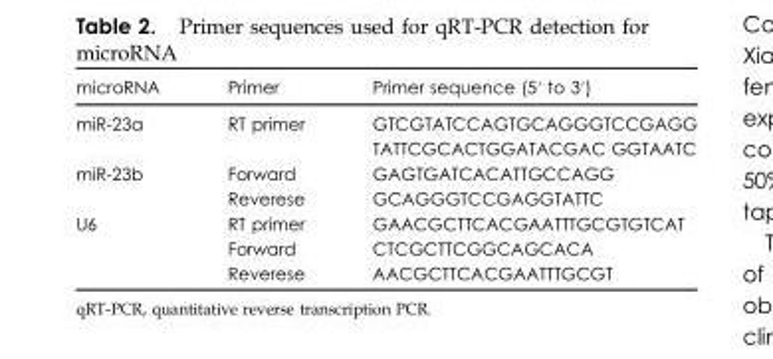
<table><thead><tr><td>microRNA</td><td>Primer</td><td>Primer sequence (5′ to 3′)</td></tr></thead><tbody><tr><td>miR-23a</td><td>RT primer</td><td>GTCGTATCCAGTGCAGGGTCCGAGG TATTCGCACTGGATACGAC GGTAATC</td></tr><tr><td rowspan="2">miR-23b</td><td>Forward</td><td>GAGTGATCACATTGCCAGG</td></tr><tr><td>Reverese</td><td>GCAGGGTCCGAGGTATTC</td></tr><tr><td rowspan="3">U6</td><td>RT primer</td><td>GAACGCTTCACGAATTTGCGTGTCAT</td></tr><tr><td>Forward</td><td>CTCGCTTCGGCAGCACA</td></tr><tr><td>Reverese</td><td>AACGCTTCACGAATTTGCGT</td></tr></tbody></table>